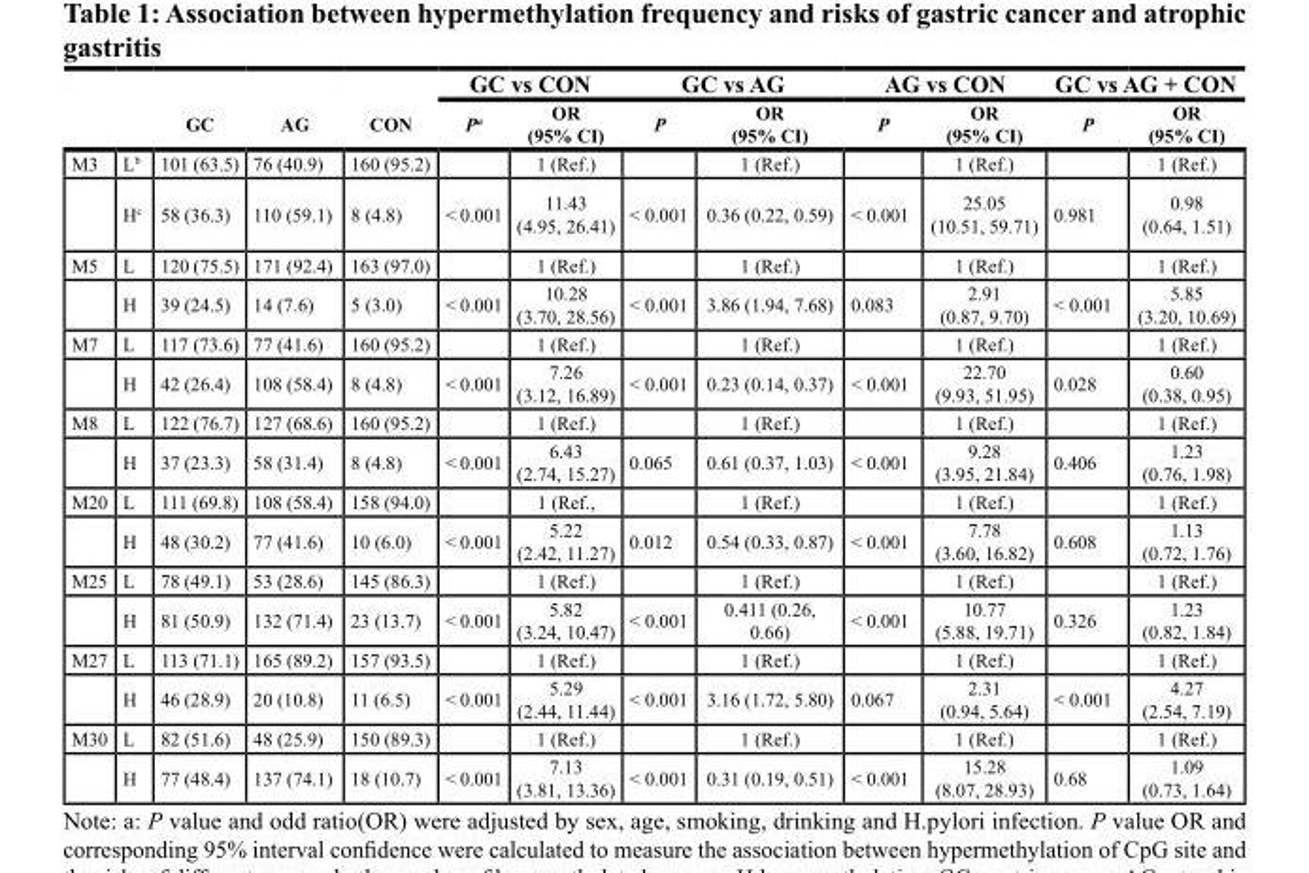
<table><thead><tr><td rowspan="2"></td><td rowspan="2"></td><td rowspan="2">GC</td><td rowspan="2">AG</td><td rowspan="2">CON</td><td colspan="2">GC vs CON</td><td colspan="2">GC vs AG</td><td colspan="2">AG vs CON</td><td colspan="2">GC vs AG + CON</td></tr><tr><td>P<sup>a</sup></td><td>OR (95% CI)</td><td>P</td><td>OR (95% CI)</td><td>P</td><td>OR (95% CI)</td><td>P</td><td>OR (95% CI)</td></tr></thead><tbody><tr><td rowspan="2">M3</td><td>L<sup>b</sup></td><td>101 (63.5)</td><td>76 (40.9)</td><td>160 (95.2)</td><td></td><td>1 (Ref.)</td><td></td><td>1 (Ref.)</td><td></td><td>1 (Ref.)</td><td></td><td>1 (Ref.)</td></tr><tr><td>H<sup>c</sup></td><td>58 (36.3)</td><td>110 (59.1)</td><td>8 (4.8)</td><td>&lt; 0.001</td><td>11.43 (4.95, 26.41)</td><td>&lt; 0.001</td><td>0.36 (0.22, 0.59)</td><td>&lt; 0.001</td><td>25.05 (10.51, 59.71)</td><td>0.981</td><td>0.98 (0.64, 1.51)</td></tr><tr><td rowspan="2">M5</td><td>L</td><td>120 (75.5)</td><td>171 (92.4)</td><td>163 (97.0)</td><td></td><td>1 (Ref.)</td><td></td><td>1 (Ref.)</td><td></td><td>1 (Ref.)</td><td></td><td>1 (Ref.)</td></tr><tr><td>H</td><td>39 (24.5)</td><td>14 (7.6)</td><td>5 (3.0)</td><td>&lt; 0.001</td><td>10.28 (3.70, 28.56)</td><td>&lt; 0.001</td><td>3.86 (1.94, 7.68)</td><td>0.083</td><td>2.91 (0.87, 9.70)</td><td>&lt; 0.001</td><td>5.85 (3.20, 10.69)</td></tr><tr><td rowspan="2">M7</td><td>L</td><td>117 (73.6)</td><td>77 (41.6)</td><td>160 (95.2)</td><td></td><td>1 (Ref.)</td><td></td><td>1 (Ref.)</td><td></td><td>1 (Ref.)</td><td></td><td>1 (Ref.)</td></tr><tr><td>H</td><td>42 (26.4)</td><td>108 (58.4)</td><td>8 (4.8)</td><td>&lt; 0.001</td><td>7.26 (3.12, 16.89)</td><td>&lt; 0.001</td><td>0.23 (0.14, 0.37)</td><td>&lt; 0.001</td><td>22.70 (9.93, 51.95)</td><td>0.028</td><td>0.60 (0.38, 0.95)</td></tr><tr><td rowspan="2">M8</td><td>L</td><td>122 (76.7)</td><td>127 (68.6)</td><td>160 (95.2)</td><td></td><td>1 (Ref.)</td><td></td><td>1 (Ref.)</td><td></td><td>1 (Ref.)</td><td></td><td>1 (Ref.)</td></tr><tr><td>H</td><td>37 (23.3)</td><td>58 (31.4)</td><td>8 (4.8)</td><td>&lt; 0.001</td><td>6.43 (2.74, 15.27)</td><td>0.065</td><td>0.61 (0.37, 1.03)</td><td>&lt; 0.001</td><td>9.28 (3.95, 21.84)</td><td>0.406</td><td>1.23 (0.76, 1.98)</td></tr><tr><td rowspan="2">M20</td><td>L</td><td>111 (69.8)</td><td>108 (58.4)</td><td>158 (94.0)</td><td></td><td>1 (Ref.,</td><td></td><td>1 (Ref.)</td><td></td><td>1 (Ref.)</td><td></td><td>1 (Ref.)</td></tr><tr><td>H</td><td>48 (30.2)</td><td>77 (41.6)</td><td>10 (6.0)</td><td>&lt; 0.001</td><td>5.22 (2.42, 11.27)</td><td>0.012</td><td>0.54 (0.33, 0.87)</td><td>&lt; 0.001</td><td>7.78 (3.60, 16.82)</td><td>0.608</td><td>1.13 (0.72, 1.76)</td></tr><tr><td rowspan="2">M25</td><td>L</td><td>78 (49.1)</td><td>53 (28.6)</td><td>145 (86.3)</td><td></td><td>1 (Ref.)</td><td></td><td>1 (Ref.)</td><td></td><td>1 (Ref.)</td><td></td><td>1 (Ref.)</td></tr><tr><td>H</td><td>81 (50.9)</td><td>132 (71.4)</td><td>23 (13.7)</td><td>&lt; 0.001</td><td>5.82 (3.24, 10.47)</td><td>&lt; 0.001</td><td>0.411 (0.26, 0.66)</td><td>&lt; 0.001</td><td>10.77 (5.88, 19.71)</td><td>0.326</td><td>1.23 (0.82, 1.84)</td></tr><tr><td rowspan="2">M27</td><td>L</td><td>113 (71.1)</td><td>165 (89.2)</td><td>157 (93.5)</td><td></td><td>1 (Ref.)</td><td></td><td>1 (Ref.)</td><td></td><td>1 (Ref.)</td><td></td><td>1 (Ref.)</td></tr><tr><td>H</td><td>46 (28.9)</td><td>20 (10.8)</td><td>11 (6.5)</td><td>&lt; 0.001</td><td>5.29 (2.44, 11.44)</td><td>&lt; 0.001</td><td>3.16 (1.72, 5.80)</td><td>0.067</td><td>2.31 (0.94, 5.64)</td><td>&lt; 0.001</td><td>4.27 (2.54, 7.19)</td></tr><tr><td rowspan="2">M30</td><td>L</td><td>82 (51.6)</td><td>48 (25.9)</td><td>150 (89.3)</td><td></td><td>1 (Ref.)</td><td></td><td>1 (Ref.)</td><td></td><td>1 (Ref.)</td><td></td><td>1 (Ref.)</td></tr><tr><td>H</td><td>77 (48.4)</td><td>137 (74.1)</td><td>18 (10.7)</td><td>&lt; 0.001</td><td>7.13 (3.81, 13.36)</td><td>&lt; 0.001</td><td>0.31 (0.19, 0.51)</td><td>&lt; 0.001</td><td>15.28 (8.07, 28.93)</td><td>0.68</td><td>1.09 (0.73, 1.64)</td></tr></tbody></table>